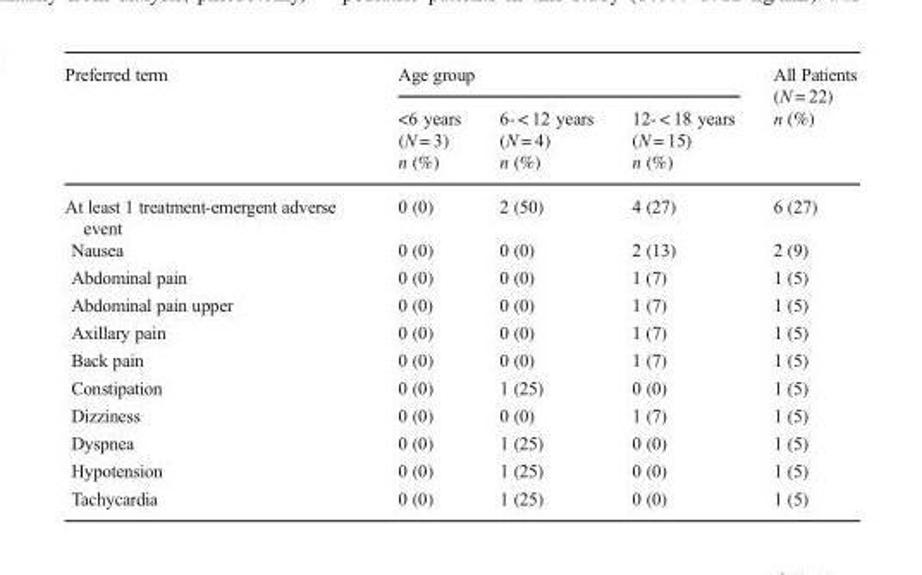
<table><thead><tr><td rowspan="3">Preferred term</td><td colspan="3">Age group</td><td rowspan="3">All Patients (N = 22) n (%)</td></tr><tr><td rowspan="2">&lt;6 years (N = 3) n (%)</td><td rowspan="2">6- &lt; 12 years (N = 4) n (%)</td><td rowspan="2">12- &lt; 18 years (N = 15) n (%)</td></tr><tr></tr></thead><tbody><tr><td>At least 1 treatment-emergent adverse event</td><td>0 (0)</td><td>2 (50)</td><td>4 (27)</td><td>6 (27)</td></tr><tr><td>Nausea</td><td>0 (0)</td><td>0 (0)</td><td>2 (13)</td><td>2 (9)</td></tr><tr><td>Abdominal pain</td><td>0 (0)</td><td>0 (0)</td><td>1 (7)</td><td>1 (5)</td></tr><tr><td>Abdominal pain upper</td><td>0 (0)</td><td>0 (0)</td><td>1 (7)</td><td>1 (5)</td></tr><tr><td>Axillary pain</td><td>0 (0)</td><td>0 (0)</td><td>1 (7)</td><td>1 (5)</td></tr><tr><td>Back pain</td><td>0 (0)</td><td>0 (0)</td><td>1 (7)</td><td>1 (5)</td></tr><tr><td>Constipation</td><td>0 (0)</td><td>1 (25)</td><td>0 (0)</td><td>1 (5)</td></tr><tr><td>Dizziness</td><td>0 (0)</td><td>0 (0)</td><td>1 (7)</td><td>1 (5)</td></tr><tr><td>Dyspnea</td><td>0 (0)</td><td>1 (25)</td><td>0 (0)</td><td>1 (5)</td></tr><tr><td>Hypotension</td><td>0 (0)</td><td>1 (25)</td><td>0 (0)</td><td>1 (5)</td></tr><tr><td>Tachycardia</td><td>0 (0)</td><td>1 (25)</td><td>0 (0)</td><td>1 (5)</td></tr></tbody></table>